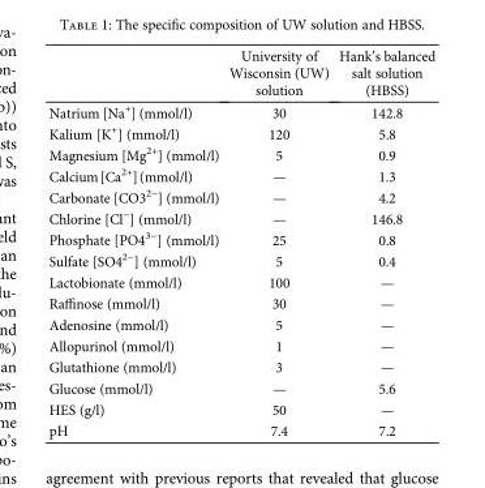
<table><thead><tr><td></td><td>University of Wisconsin (UW) solution</td><td>Hank’s balanced salt solution (HBSS)</td></tr></thead><tbody><tr><td>Natrium [Na<sup>+</sup>] (mmol/l)</td><td>30</td><td>142.8</td></tr><tr><td>Kalium [K<sup>+</sup>] (mmol/l)</td><td>120</td><td>5.8</td></tr><tr><td>Magnesium [Mg<sup>2+</sup>] (mmol/l)</td><td>5</td><td>0.9</td></tr><tr><td>Calcium[Ca<sup>2+</sup>](mmol/l)</td><td>—</td><td>1.3</td></tr><tr><td>Carbonate [CO3<sup>2−</sup>] (mmol/l)</td><td>—</td><td>4.2</td></tr><tr><td>Chlorine [Cl<sup>−</sup>] (mmol/l)</td><td>—</td><td>146.8</td></tr><tr><td>Phosphate [PO4<sup>3−</sup>] (mmol/l)</td><td>25</td><td>0.8</td></tr><tr><td>Sulfate [SO4<sup>2−</sup>] (mmol/l)</td><td>5</td><td>0.4</td></tr><tr><td>Lactobionate (mmol/l)</td><td>100</td><td>—</td></tr><tr><td>Raffinose (mmol/l)</td><td>30</td><td>—</td></tr><tr><td>Adenosine (mmol/l)</td><td>5</td><td>—</td></tr><tr><td>Allopurinol (mmol/l)</td><td>1</td><td>—</td></tr><tr><td>Glutathione (mmol/l)</td><td>3</td><td>—</td></tr><tr><td>Glucose (mmol/l)</td><td>—</td><td>5.6</td></tr><tr><td>HES (g/l)</td><td>50</td><td>—</td></tr><tr><td>pH</td><td>7.4</td><td>7.2</td></tr></tbody></table>